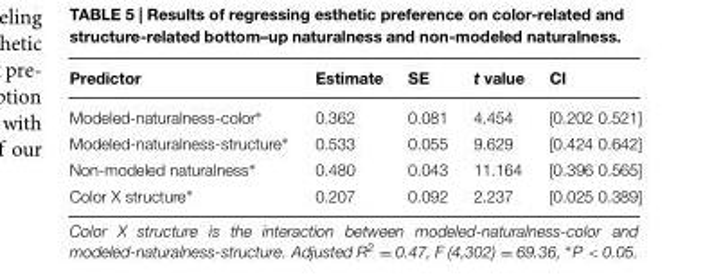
<table><thead><tr><td>Predictor</td><td>Estimate</td><td>SE</td><td>t value</td><td>CI</td></tr></thead><tbody><tr><td>Modeled-naturalness-color∗</td><td>0.362</td><td>0.081</td><td>4.454</td><td>[0.202 0.521]</td></tr><tr><td>Modeled-naturalness-structure∗</td><td>0.533</td><td>0.055</td><td>9.629</td><td>[0.424 0.642]</td></tr><tr><td>Non-modeled naturalness∗</td><td>0.480</td><td>0.043</td><td>11.164</td><td>[0.396 0.565]</td></tr><tr><td>Color X structure∗</td><td>0.207</td><td>0.092</td><td>2.237</td><td>[0.025 0.389]</td></tr></tbody></table>